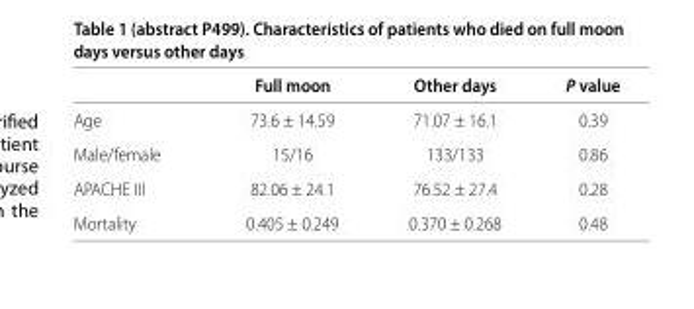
<table><thead><tr><td></td><td>Full moon</td><td>Other days</td><td>P value</td></tr></thead><tbody><tr><td>Age</td><td>73.6 ± 14.59</td><td>71.07 ± 16.1</td><td>0.39</td></tr><tr><td>Male/female</td><td>15/16</td><td>133/133</td><td>0.86</td></tr><tr><td>APACHE III</td><td>82.06 ± 24.1</td><td>76.52 ± 27.4</td><td>0.28</td></tr><tr><td>Mortality</td><td>0.405 ± 0.249</td><td>0.370 ± 0.268</td><td>0.48</td></tr></tbody></table>